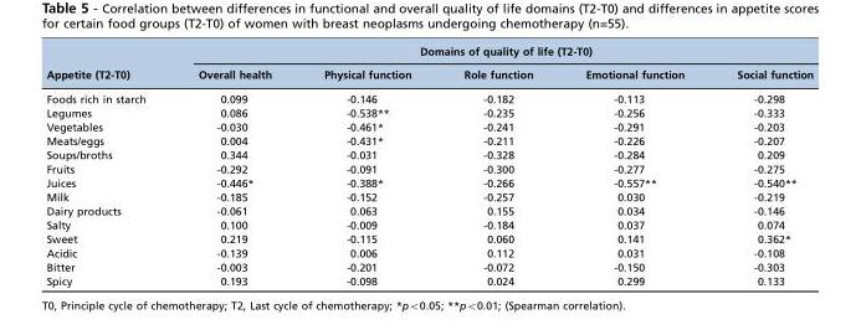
<table><thead><tr><td rowspan="2">Appetite (T2-T0)</td><td colspan="5">Domains of quality of life (T2-T0)</td></tr><tr><td>Overall health</td><td>Physical function</td><td>Role function</td><td>Emotional function</td><td>Social function</td></tr></thead><tbody><tr><td>Foods rich in starch</td><td>0.099</td><td>-0.146</td><td>-0.182</td><td>-0.113</td><td>-0.298</td></tr><tr><td>Legumes</td><td>0.086</td><td>-0.538**</td><td>-0.235</td><td>-0.256</td><td>-0.333</td></tr><tr><td>Vegetables</td><td>-0.030</td><td>-0.461*</td><td>-0.241</td><td>-0.291</td><td>-0.203</td></tr><tr><td>Meats/eggs</td><td>0.004</td><td>-0.431*</td><td>-0.211</td><td>-0.226</td><td>-0.207</td></tr><tr><td>Soups/broths</td><td>0.344</td><td>-0.031</td><td>-0.328</td><td>-0.284</td><td>0.209</td></tr><tr><td>Fruits</td><td>-0.292</td><td>-0.091</td><td>-0.300</td><td>-0.277</td><td>-0.275</td></tr><tr><td>Juices</td><td>-0.446*</td><td>-0.388*</td><td>-0.266</td><td>-0.557**</td><td>-0.540**</td></tr><tr><td>Milk</td><td>-0.185</td><td>-0.152</td><td>-0.257</td><td>0.030</td><td>-0.219</td></tr><tr><td>Dairy products</td><td>-0.061</td><td>0.063</td><td>0.155</td><td>0.034</td><td>-0.146</td></tr><tr><td>Salty</td><td>0.100</td><td>-0.009</td><td>-0.184</td><td>0.037</td><td>0.074</td></tr><tr><td>Sweet</td><td>0.219</td><td>-0.115</td><td>0.060</td><td>0.141</td><td>0.362*</td></tr><tr><td>Acidic</td><td>-0.139</td><td>0.006</td><td>0.112</td><td>0.031</td><td>-0.108</td></tr><tr><td>Bitter</td><td>-0.003</td><td>-0.201</td><td>-0.072</td><td>-0.150</td><td>-0.303</td></tr><tr><td>Spicy</td><td>0.193</td><td>-0.098</td><td>0.024</td><td>0.299</td><td>0.133</td></tr></tbody></table>